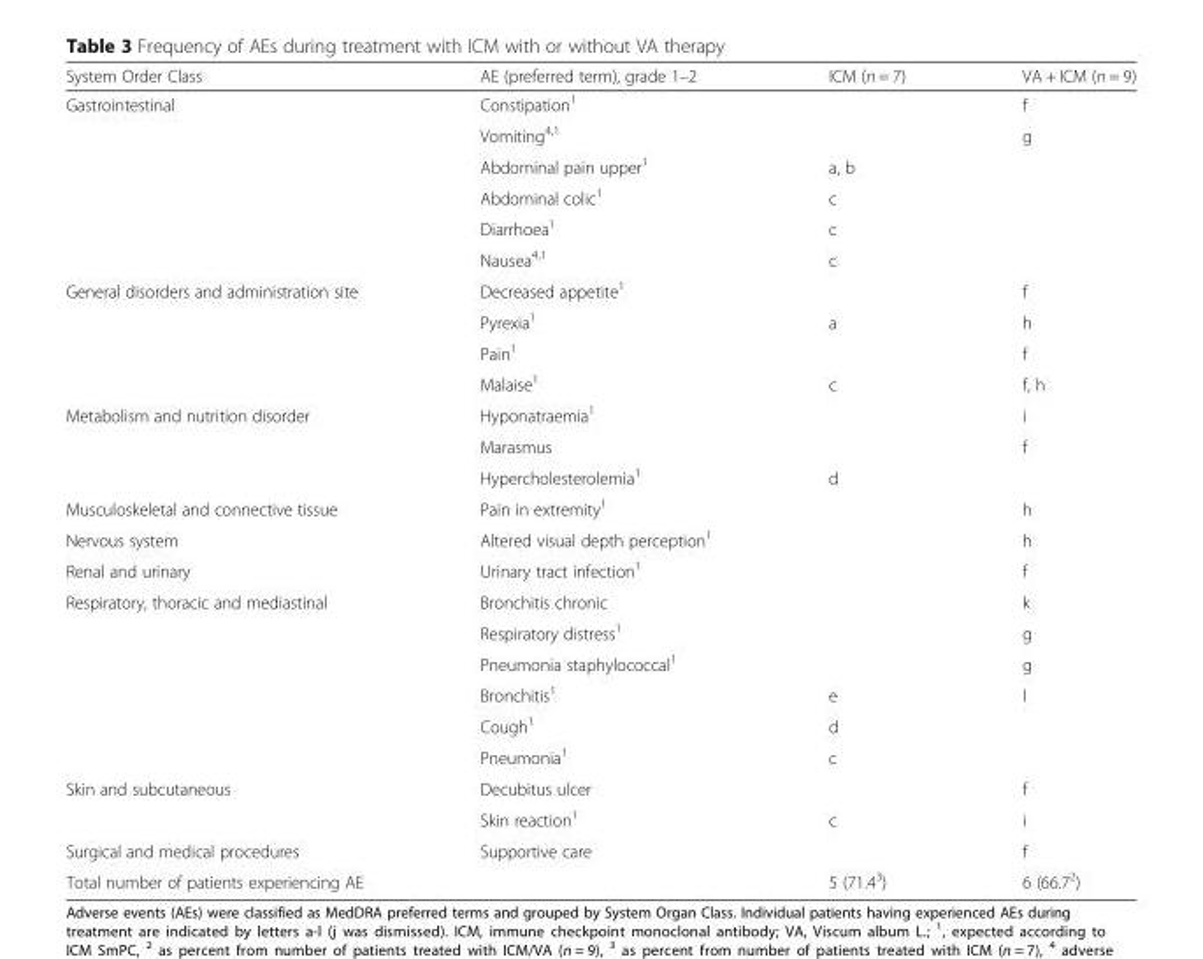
<table><thead><tr><td>System Order Class</td><td>AE (preferred term), grade 1–2</td><td>ICM (n = 7)</td><td>VA + ICM (n = 9)</td></tr></thead><tbody><tr><td rowspan="6">Gastrointestinal</td><td>Constipation<sup>1</sup></td><td></td><td>f</td></tr><tr><td>Vomiting<sup>4,1</sup></td><td></td><td>g</td></tr><tr><td>Abdominal pain upper<sup>1</sup></td><td>a, b</td><td></td></tr><tr><td>Abdominal colic<sup>1</sup></td><td>c</td><td></td></tr><tr><td>Diarrhoea<sup>1</sup></td><td>c</td><td></td></tr><tr><td>Nausea<sup>4,1</sup></td><td>c</td><td></td></tr><tr><td rowspan="4">General disorders and administration site</td><td>Decreased appetite<sup>1</sup></td><td></td><td>f</td></tr><tr><td>Pyrexia<sup>1</sup></td><td>a</td><td>h</td></tr><tr><td>Pain<sup>1</sup></td><td></td><td>f</td></tr><tr><td>Malaise<sup>1</sup></td><td>c</td><td>f, h</td></tr><tr><td rowspan="3">Metabolism and nutrition disorder</td><td>Hyponatraemia<sup>1</sup></td><td></td><td>i</td></tr><tr><td>Marasmus</td><td></td><td>f</td></tr><tr><td>Hypercholesterolemia<sup>1</sup></td><td>d</td><td></td></tr><tr><td>Musculoskeletal and connective tissue</td><td>Pain in extremity<sup>1</sup></td><td></td><td>h</td></tr><tr><td>Nervous system</td><td>Altered visual depth perception<sup>1</sup></td><td></td><td>h</td></tr><tr><td>Renal and urinary</td><td>Urinary tract infection<sup>1</sup></td><td></td><td>f</td></tr><tr><td rowspan="6">Respiratory, thoracic and mediastinal</td><td>Bronchitis chronic</td><td></td><td>k</td></tr><tr><td>Respiratory distress<sup>1</sup></td><td></td><td>g</td></tr><tr><td>Pneumonia staphylococcal<sup>1</sup></td><td></td><td>g</td></tr><tr><td>Bronchitis<sup>1</sup></td><td>e</td><td>l</td></tr><tr><td>Cough<sup>1</sup></td><td>d</td><td></td></tr><tr><td>Pneumonia<sup>1</sup></td><td>c</td><td></td></tr><tr><td rowspan="2">Skin and subcutaneous</td><td>Decubitus ulcer</td><td></td><td>f</td></tr><tr><td>Skin reaction<sup>1</sup></td><td>c</td><td>i</td></tr><tr><td>Surgical and medical procedures</td><td>Supportive care</td><td></td><td>f</td></tr><tr><td>Total number of patients experiencing AE</td><td></td><td>5 (71.4<sup>3</sup>)</td><td>6 (66.7<sup>2</sup>)</td></tr></tbody></table>